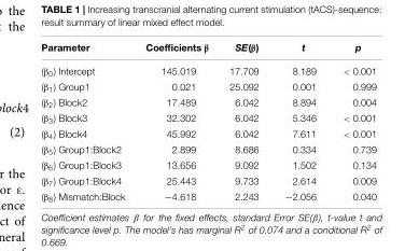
<table><thead><tr><td>Parameter</td><td>Coefficients β</td><td>SE(β)</td><td>t</td><td>p</td></tr></thead><tbody><tr><td>(β<sub>0</sub>) Intercept</td><td>145.019</td><td>17.709</td><td>8.189</td><td>&lt; 0.001</td></tr><tr><td>(β<sub>1</sub>) Group1</td><td>0.021</td><td>25.092</td><td>0.001</td><td>0.999</td></tr><tr><td>(β<sub>2</sub>) Block2</td><td>17.489</td><td>6.042</td><td>8.894</td><td>0.004</td></tr><tr><td>(β<sub>3</sub>) Block3</td><td>32.302</td><td>6.042</td><td>5.346</td><td>&lt; 0.001</td></tr><tr><td>(β<sub>4</sub>) Block4</td><td>45.992</td><td>6.042</td><td>7.611</td><td>&lt; 0.001</td></tr><tr><td>(β<sub>5</sub>) Group1:Block2</td><td>2.899</td><td>8.686</td><td>0.334</td><td>0.739</td></tr><tr><td>(β<sub>6</sub>) Group1:Block3</td><td>13.656</td><td>9.092</td><td>1.502</td><td>0.134</td></tr><tr><td>(β<sub>7</sub>) Group1:Block4</td><td>25.443</td><td>9.733</td><td>2.614</td><td>0.009</td></tr><tr><td>(β<sub>8</sub>) Mismatch:Block</td><td>−4.618</td><td>2.243</td><td>−2.056</td><td>0.040</td></tr></tbody></table>